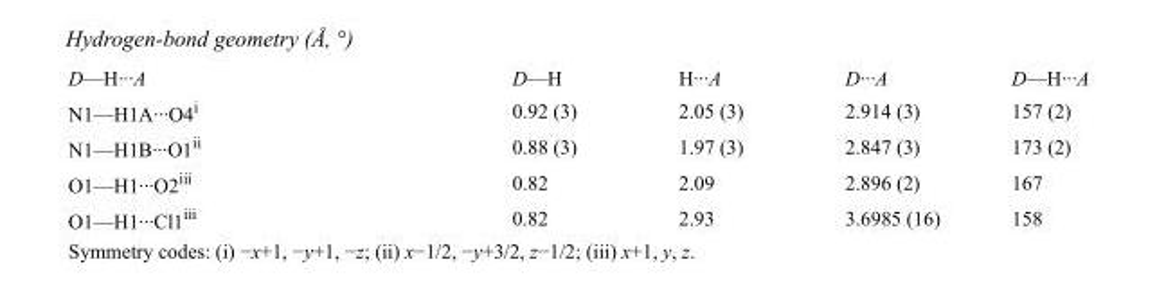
<table><tbody><tr><td>D—H···A</td><td>D—H</td><td>H···A</td><td>D···A</td><td>D—H···A</td></tr><tr><td>N1—H1A···O4<sup>i</sup></td><td>0.92 (3)</td><td>2.05 (3)</td><td>2.914 (3)</td><td>157 (2)</td></tr><tr><td>N1—H1B···O1<sup>ii</sup></td><td>0.88 (3)</td><td>1.97 (3)</td><td>2.847 (3)</td><td>173 (2)</td></tr><tr><td>O1—H1···O2<sup>iii</sup></td><td>0.82</td><td>2.09</td><td>2.896 (2)</td><td>167</td></tr><tr><td>O1—H1···Cl1<sup>iii</sup></td><td>0.82</td><td>2.93</td><td>3.6985 (16)</td><td>158</td></tr></tbody></table>